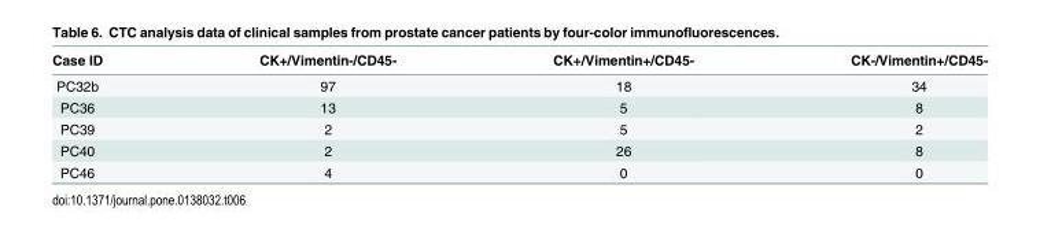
<table><thead><tr><td>Case ID</td><td>CK+/Vimentin-/CD45-</td><td>CK+/Vimentin+/CD45-</td><td>CK-/Vimentin+/CD45-</td></tr></thead><tbody><tr><td>PC32b</td><td>97</td><td>18</td><td>34</td></tr><tr><td>PC36</td><td>13</td><td>5</td><td>8</td></tr><tr><td>PC39</td><td>2</td><td>5</td><td>2</td></tr><tr><td>PC40</td><td>2</td><td>26</td><td>8</td></tr><tr><td>PC46</td><td>4</td><td>0</td><td>0</td></tr></tbody></table>